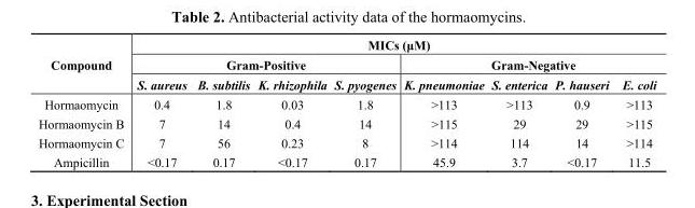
<table><thead><tr><td rowspan="3">Compound</td><td colspan="8">MICs (μM)</td></tr><tr><td colspan="4">Gram-Positive</td><td colspan="4">Gram-Negative</td></tr><tr><td>S. aureus</td><td>B. subtilis</td><td>K. rhizophila</td><td>S. pyogenes</td><td>K. pneumoniae</td><td>S. enterica</td><td>P. hauseri</td><td>E. coli</td></tr></thead><tbody><tr><td>Hormaomycin</td><td>0.4</td><td>1.8</td><td>0.03</td><td>1.8</td><td>&gt;113</td><td>&gt;113</td><td>0.9</td><td>&gt;113</td></tr><tr><td>Hormaomycin B</td><td>7</td><td>14</td><td>0.4</td><td>14</td><td>&gt;115</td><td>29</td><td>29</td><td>&gt;115</td></tr><tr><td>Hormaomycin C</td><td>7</td><td>56</td><td>0.23</td><td>8</td><td>&gt;114</td><td>114</td><td>14</td><td>&gt;114</td></tr><tr><td>Ampicillin</td><td>&lt;0.17</td><td>0.17</td><td>&lt;0.17</td><td>0.17</td><td>45.9</td><td>3.7</td><td>&lt;0.17</td><td>11.5</td></tr></tbody></table>